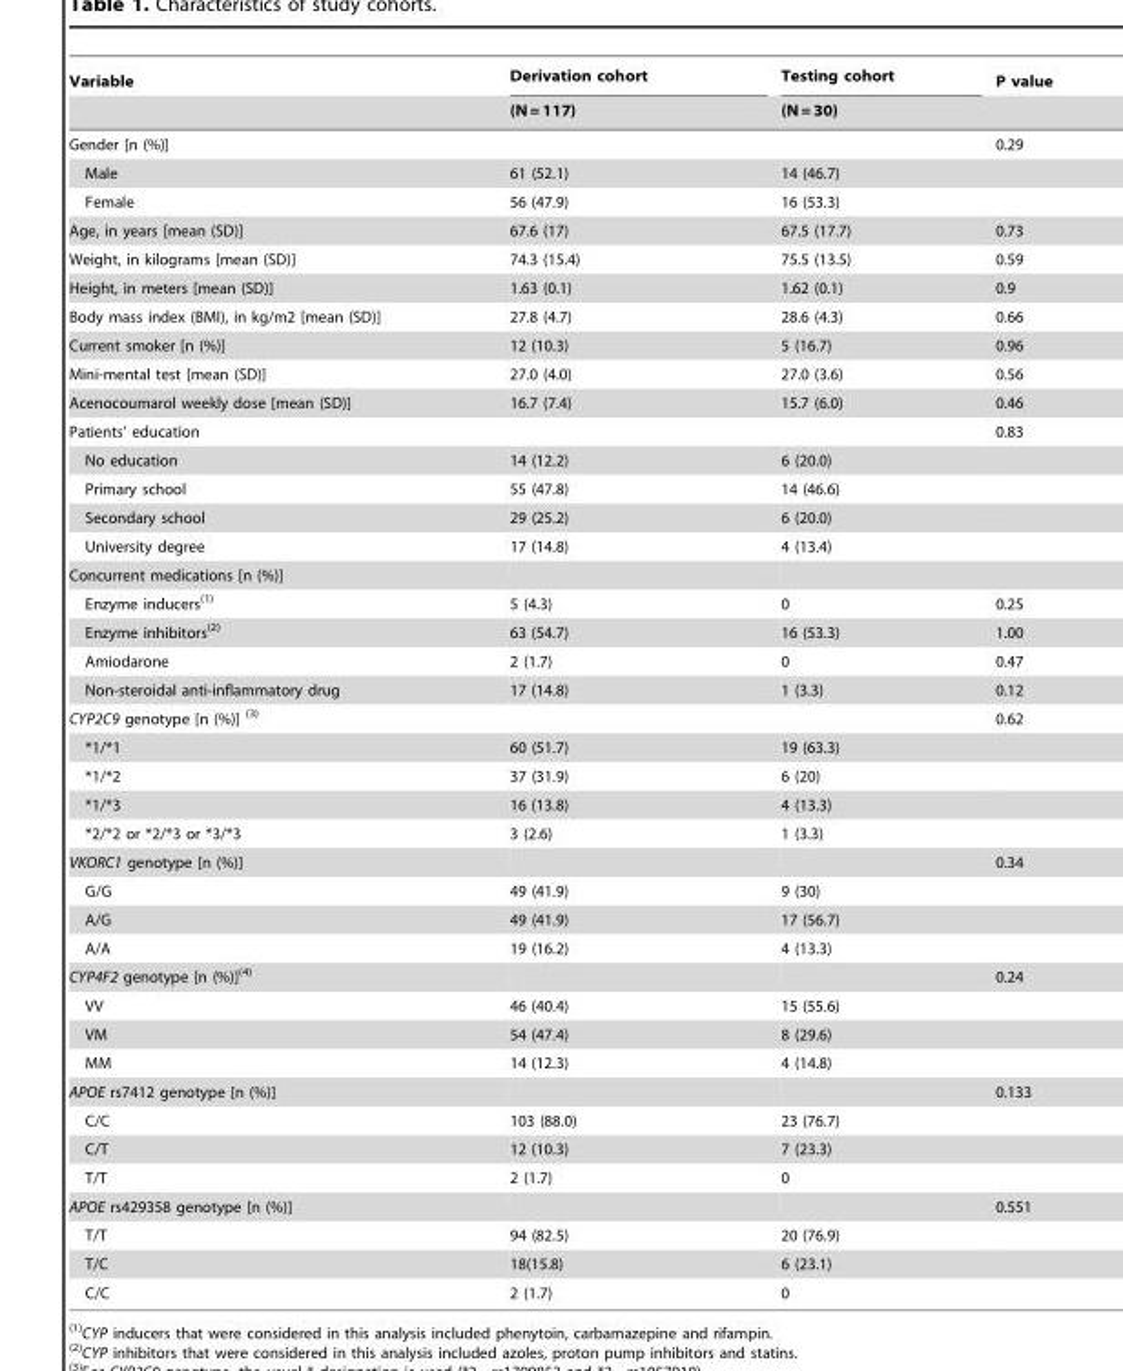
<table><thead><tr><td rowspan="2">Variable</td><td rowspan="2">Derivation cohort (N = 117)</td><td rowspan="2">Testing cohort (N = 30)</td><td rowspan="2">P value</td></tr><tr></tr></thead><tbody><tr><td>Gender [n (%)]</td><td></td><td></td><td>0.29</td></tr><tr><td>Male</td><td>61 (52.1)</td><td>14 (46.7)</td><td></td></tr><tr><td>Female</td><td>56 (47.9)</td><td>16 (53.3)</td><td></td></tr><tr><td>Age, in years [mean (SD)]</td><td>67.6 (17)</td><td>67.5 (17.7)</td><td>0.73</td></tr><tr><td>Weight, in kilograms [mean (SD)]</td><td>74.3 (15.4)</td><td>75.5 (13.5)</td><td>0.59</td></tr><tr><td>Height, in meters [mean (SD)]</td><td>1.63 (0.1)</td><td>1.62 (0.1)</td><td>0.9</td></tr><tr><td>Body mass index (BMI), in kg/m2 [mean (SD)]</td><td>27.8 (4.7)</td><td>28.6 (4.3)</td><td>0.66</td></tr><tr><td>Current smoker [n (%)]</td><td>12 (10.3)</td><td>5 (16.7)</td><td>0.96</td></tr><tr><td>Mini-mental test [mean (SD)]</td><td>27.0 (4.0)</td><td>27.0 (3.6)</td><td>0.56</td></tr><tr><td>Acenocoumarol weekly dose [mean (SD)]</td><td>16.7 (7.4)</td><td>15.7 (6.0)</td><td>0.46</td></tr><tr><td>Patients’ education</td><td></td><td></td><td>0.83</td></tr><tr><td>No education</td><td>14 (12.2)</td><td>6 (20.0)</td><td></td></tr><tr><td>Primary school</td><td>55 (47.8)</td><td>14 (46.6)</td><td></td></tr><tr><td>Secondary school</td><td>29 (25.2)</td><td>6 (20.0)</td><td></td></tr><tr><td>University degree</td><td>17 (14.8)</td><td>4 (13.4)</td><td></td></tr><tr><td colspan="4">Concurrent medications [n (%)]</td></tr><tr><td>Enzyme inducers(1)</td><td>5 (4.3)</td><td>0</td><td>0.25</td></tr><tr><td>Enzyme inhibitors(2)</td><td>63 (54.7)</td><td>16 (53.3)</td><td>1.00</td></tr><tr><td>Amiodarone</td><td>2 (1.7)</td><td>0</td><td>0.47</td></tr><tr><td>Non-steroidal anti-inflammatory drug</td><td>17 (14.8)</td><td>1 (3.3)</td><td>0.12</td></tr><tr><td>CYP2C9 genotype [n (%)] (3)</td><td></td><td></td><td>0.62</td></tr><tr><td>*1/*1</td><td>60 (51.7)</td><td>19 (63.3)</td><td></td></tr><tr><td>*1/*2</td><td>37 (31.9)</td><td>6 (20)</td><td></td></tr><tr><td>*1/*3</td><td>16 (13.8)</td><td>4 (13.3)</td><td></td></tr><tr><td>*2/*2 or *2/*3 or *3/*3</td><td>3 (2.6)</td><td>1 (3.3)</td><td></td></tr><tr><td>VKORC1 genotype [n (%)]</td><td></td><td></td><td>0.34</td></tr><tr><td>G/G</td><td>49 (41.9)</td><td>9 (30)</td><td></td></tr><tr><td>A/G</td><td>49 (41.9)</td><td>17 (56.7)</td><td></td></tr><tr><td>A/A</td><td>19 (16.2)</td><td>4 (13.3)</td><td></td></tr><tr><td>CYP4F2 genotype [n (%)](4)</td><td></td><td></td><td>0.24</td></tr><tr><td>VV</td><td>46 (40.4)</td><td>15 (55.6)</td><td></td></tr><tr><td>VM</td><td>54 (47.4)</td><td>8 (29.6)</td><td></td></tr><tr><td>MM</td><td>14 (12.3)</td><td>4 (14.8)</td><td></td></tr><tr><td>APOE rs7412 genotype [n (%)]</td><td></td><td></td><td>0.133</td></tr><tr><td>C/C</td><td>103 (88.0)</td><td>23 (76.7)</td><td></td></tr><tr><td>C/T</td><td>12 (10.3)</td><td>7 (23.3)</td><td></td></tr><tr><td>T/T</td><td>2 (1.7)</td><td>0</td><td></td></tr><tr><td>APOE rs429358 genotype [n (%)]</td><td></td><td></td><td>0.551</td></tr><tr><td>T/T</td><td>94 (82.5)</td><td>20 (76.9)</td><td></td></tr><tr><td>T/C</td><td>18(15.8)</td><td>6 (23.1)</td><td></td></tr><tr><td>C/C</td><td>2 (1.7)</td><td>0</td><td></td></tr></tbody></table>